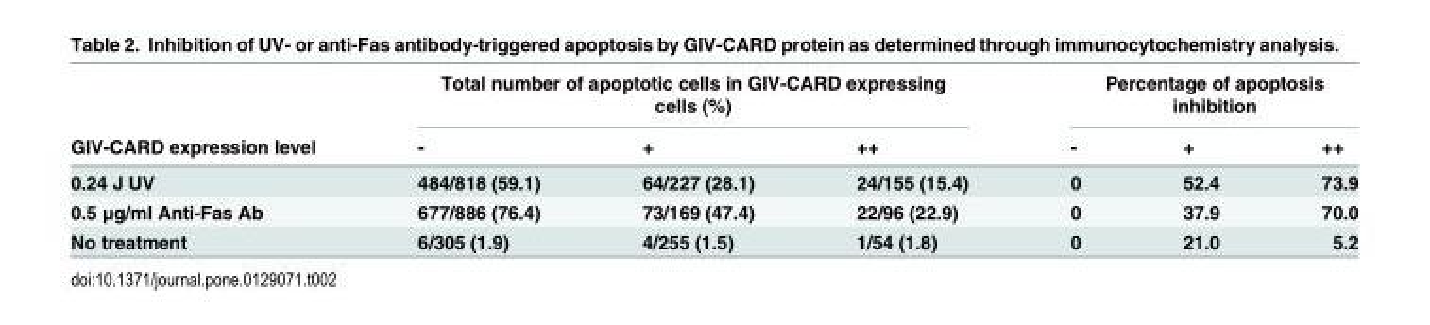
<table><thead><tr><td rowspan="2">GIV-CARD expression level</td><td colspan="3">Total number of apoptotic cells in GIV-CARD expressing cells (%)</td><td colspan="3">Percentage of apoptosis inhibition</td></tr><tr><td>-</td><td>+</td><td>++</td><td>-</td><td>+</td><td>++</td></tr></thead><tbody><tr><td>0.24 J UV</td><td>484/818 (59.1)</td><td>64/227 (28.1)</td><td>24/155 (15.4)</td><td>0</td><td>52.4</td><td>73.9</td></tr><tr><td>0.5 μg/ml Anti-Fas Ab</td><td>677/886 (76.4)</td><td>73/169 (47.4)</td><td>22/96 (22.9)</td><td>0</td><td>37.9</td><td>70.0</td></tr><tr><td>No treatment</td><td>6/305 (1.9)</td><td>4/255 (1.5)</td><td>1/54 (1.8)</td><td>0</td><td>21.0</td><td>5.2</td></tr></tbody></table>